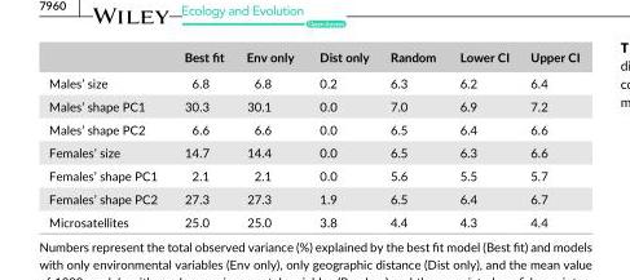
<table><thead><tr><td></td><td>Best fit</td><td>Env only</td><td>Dist only</td><td>Random</td><td>Lower CI</td><td>Upper CI</td></tr></thead><tbody><tr><td>Males’ size</td><td>6.8</td><td>6.8</td><td>0.2</td><td>6.3</td><td>6.2</td><td>6.4</td></tr><tr><td>Males’ shape PC1</td><td>30.3</td><td>30.1</td><td>0.0</td><td>7.0</td><td>6.9</td><td>7.2</td></tr><tr><td>Males’ shape PC2</td><td>6.6</td><td>6.6</td><td>0.0</td><td>6.5</td><td>6.4</td><td>6.6</td></tr><tr><td>Females’ size</td><td>14.7</td><td>14.4</td><td>0.0</td><td>6.5</td><td>6.3</td><td>6.6</td></tr><tr><td>Females’ shape PC1</td><td>2.1</td><td>2.1</td><td>0.0</td><td>5.6</td><td>5.5</td><td>5.7</td></tr><tr><td>Females’ shape PC2</td><td>27.3</td><td>27.3</td><td>1.9</td><td>6.5</td><td>6.4</td><td>6.7</td></tr><tr><td>Microsatellites</td><td>25.0</td><td>25.0</td><td>3.8</td><td>4.4</td><td>4.3</td><td>4.4</td></tr></tbody></table>